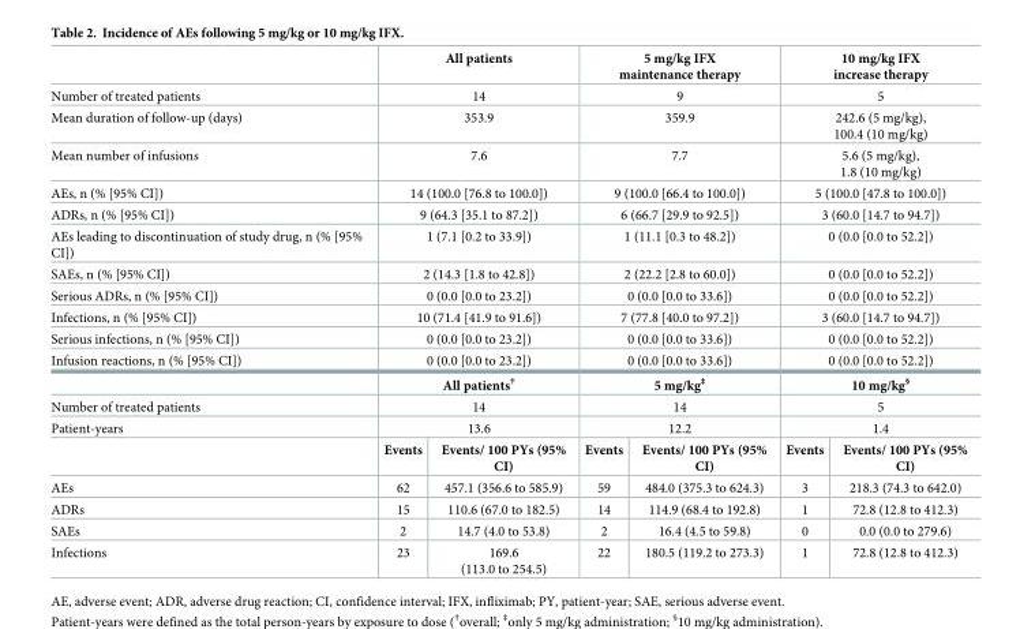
<table><thead><tr><td></td><td colspan="2">All patients</td><td colspan="2">5 mg/kg IFX maintenance therapy</td><td colspan="2">10 mg/kg IFX increase therapy</td></tr></thead><tbody><tr><td>Number of treated patients</td><td colspan="2">14</td><td colspan="2">9</td><td colspan="2">5</td></tr><tr><td>Mean duration of follow-up (days)</td><td colspan="2">353.9</td><td colspan="2">359.9</td><td colspan="2">242.6 (5 mg/kg), 100.4 (10 mg/kg)</td></tr><tr><td>Mean number of infusions</td><td colspan="2">7.6</td><td colspan="2">7.7</td><td colspan="2">5.6 (5 mg/kg), 1.8 (10 mg/kg)</td></tr><tr><td>AEs, n (% [95% CI])</td><td colspan="2">14 (100.0 [76.8 to 100.0])</td><td colspan="2">9 (100.0 [66.4 to 100.0])</td><td colspan="2">5 (100.0 [47.8 to 100.0])</td></tr><tr><td>ADRs, n (% [95% CI])</td><td colspan="2">9 (64.3 [35.1 to 87.2])</td><td colspan="2">6 (66.7 [29.9 to 92.5])</td><td colspan="2">3 (60.0 [14.7 to 94.7])</td></tr><tr><td>AEs leading to discontinuation of study drug, n (% [95% CI])</td><td colspan="2">1 (7.1 [0.2 to 33.9])</td><td colspan="2">1 (11.1 [0.3 to 48.2])</td><td colspan="2">0 (0.0 [0.0 to 52.2])</td></tr><tr><td>SAEs, n (% [95% CI])</td><td colspan="2">2 (14.3 [1.8 to 42.8])</td><td colspan="2">2 (22.2 [2.8 to 60.0])</td><td colspan="2">0 (0.0 [0.0 to 52.2])</td></tr><tr><td>Serious ADRs, n (% [95% CI])</td><td colspan="2">0 (0.0 [0.0 to 23.2])</td><td colspan="2">0 (0.0 [0.0 to 33.6])</td><td colspan="2">0 (0.0 [0.0 to 52.2])</td></tr><tr><td>Infections, n (% [95% CI])</td><td colspan="2">10 (71.4 [41.9 to 91.6])</td><td colspan="2">7 (77.8 [40.0 to 97.2])</td><td colspan="2">3 (60.0 [14.7 to 94.7])</td></tr><tr><td>Serious infections, n (% [95% CI])</td><td colspan="2">0 (0.0 [0.0 to 23.2])</td><td colspan="2">0 (0.0 [0.0 to 33.6])</td><td colspan="2">0 (0.0 [0.0 to 52.2])</td></tr><tr><td rowspan="2">Infusion reactions, n (% [95% CI])</td><td colspan="2">0 (0.0 [0.0 to 23.2])</td><td colspan="2">0 (0.0 [0.0 to 33.6])</td><td colspan="2">0 (0.0 [0.0 to 52.2])</td></tr><tr><td colspan="2">All patients<sup>†</sup></td><td colspan="2">5 mg/kg<sup>‡</sup></td><td colspan="2">10 mg/kg<sup>§</sup></td></tr><tr><td>Number of treated patients</td><td colspan="2">14</td><td colspan="2">14</td><td colspan="2">5</td></tr><tr><td rowspan="2">Patient-years</td><td colspan="2">13.6</td><td colspan="2">12.2</td><td colspan="2">1.4</td></tr><tr><td>Events</td><td>Events/ 100 PYs (95% CI)</td><td>Events</td><td>Events/ 100 PYs (95% CI)</td><td>Events</td><td>Events/ 100 PYs (95% CI)</td></tr><tr><td>AEs</td><td>62</td><td>457.1 (356.6 to 585.9)</td><td>59</td><td>484.0 (375.3 to 624.3)</td><td>3</td><td>218.3 (74.3 to 642.0)</td></tr><tr><td>ADRs</td><td>15</td><td>110.6 (67.0 to 182.5)</td><td>14</td><td>114.9 (68.4 to 192.8)</td><td>1</td><td>72.8 (12.8 to 412.3)</td></tr><tr><td>SAEs</td><td>2</td><td>14.7 (4.0 to 53.8)</td><td>2</td><td>16.4 (4.5 to 59.8)</td><td>0</td><td>0.0 (0.0 to 279.6)</td></tr><tr><td>Infections</td><td>23</td><td>169.6 (113.0 to 254.5)</td><td>22</td><td>180.5 (119.2 to 273.3)</td><td>1</td><td>72.8 (12.8 to 412.3)</td></tr></tbody></table>